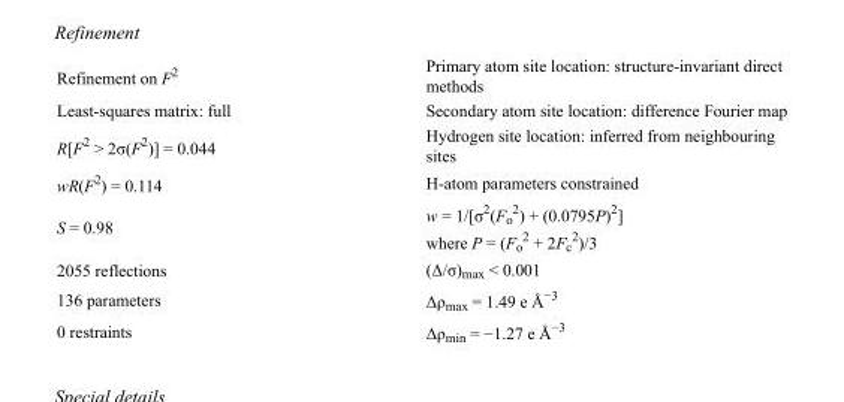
<table><tbody><tr><td>Refinement on F<sup>2</sup></td><td>Primary atom site location: structure-invariant direct methods</td></tr><tr><td>Least-squares matrix: full</td><td>Secondary atom site location: difference Fourier map</td></tr><tr><td>R[F<sup>2</sup> &gt; 2σ(F<sup>2</sup>)] = 0.044</td><td>Hydrogen site location: inferred from neighbouring sites</td></tr><tr><td>wR(F<sup>2</sup>) = 0.114</td><td>H-atom parameters constrained</td></tr><tr><td>S = 0.98</td><td>w = 1/[σ<sup>2</sup>(F<sub>o</sub> <sup>2</sup>) + (0.0795P)<sup>2</sup>] where P = (F<sub>o</sub> <sup>2</sup> + 2F<sub>c</sub> <sup>2</sup>)/3</td></tr><tr><td>2055 reflections</td><td>(Δ/σ)<sub>max</sub> &lt; 0.001</td></tr><tr><td>136 parameters</td><td>Δρ<sub>max</sub> = 1.49 e Å<sup>−3</sup></td></tr><tr><td>0 restraints</td><td>Δρ<sub>min</sub> = −1.27 e Å<sup>−3</sup></td></tr></tbody></table>